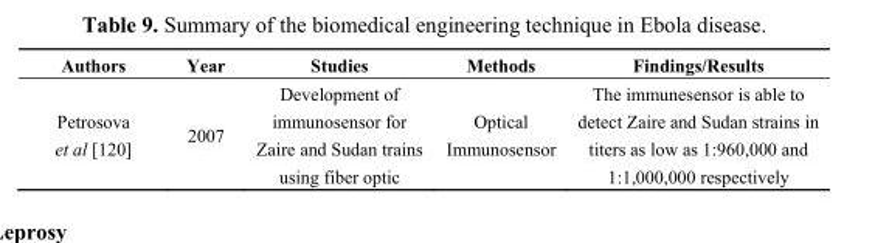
<table><thead><tr><td>Authors</td><td>Year</td><td>Studies</td><td>Methods</td><td>Findings/Results</td></tr></thead><tbody><tr><td>Petrosova et al [120]</td><td>2007</td><td>Development of immunosensor for Zaire and Sudan trains using fiber optic</td><td>Optical Immunosensor</td><td>The immunesensor is able to detect Zaire and Sudan strains in titers as low as 1:960,000 and 1:1,000,000 respectively</td></tr></tbody></table>